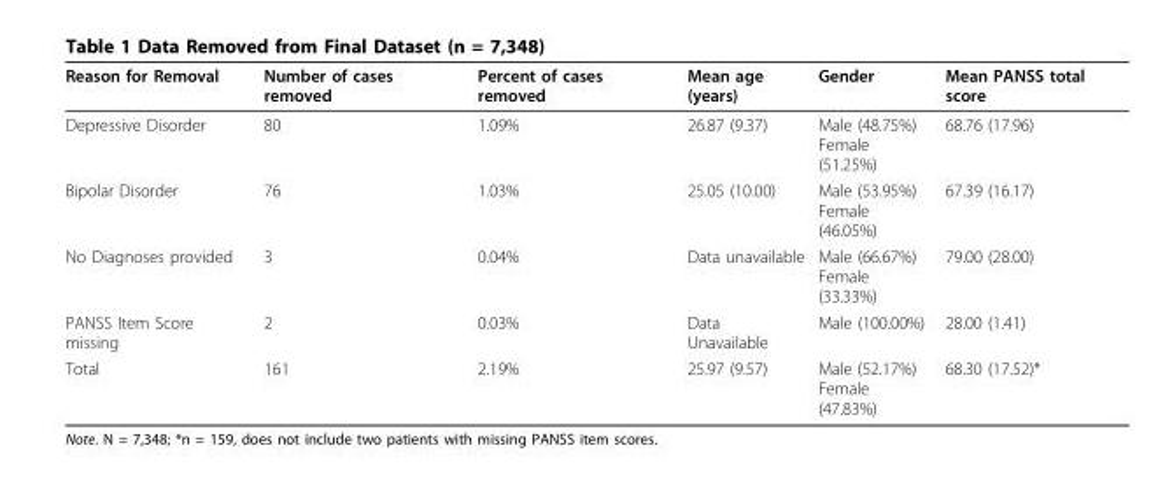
<table><thead><tr><td>Reason for Removal</td><td>Number of cases removed</td><td>Percent of cases removed</td><td>Mean age (years)</td><td>Gender</td><td>Mean PANSS total score</td></tr></thead><tbody><tr><td>Depressive Disorder</td><td>80</td><td>1.09%</td><td>26.87 (9.37)</td><td>Male (48.75%) Female (51.25%)</td><td>68.76 (17.96)</td></tr><tr><td>Bipolar Disorder</td><td>76</td><td>1.03%</td><td>25.05 (10.00)</td><td>Male (53.95%) Female (46.05%)</td><td>67.39 (16.17)</td></tr><tr><td>No Diagnoses provided</td><td>3</td><td>0.04%</td><td>Data unavailable</td><td>Male (66.67%) Female (33.33%)</td><td>79.00 (28.00)</td></tr><tr><td>PANSS Item Score missing</td><td>2</td><td>0.03%</td><td>Data Unavailable</td><td>Male (100.00%)</td><td>28.00 (1.41)</td></tr><tr><td>Total</td><td>161</td><td>2.19%</td><td>25.97 (9.57)</td><td>Male (52.17%) Female (47.83%)</td><td>68.30 (17.52)*</td></tr></tbody></table>